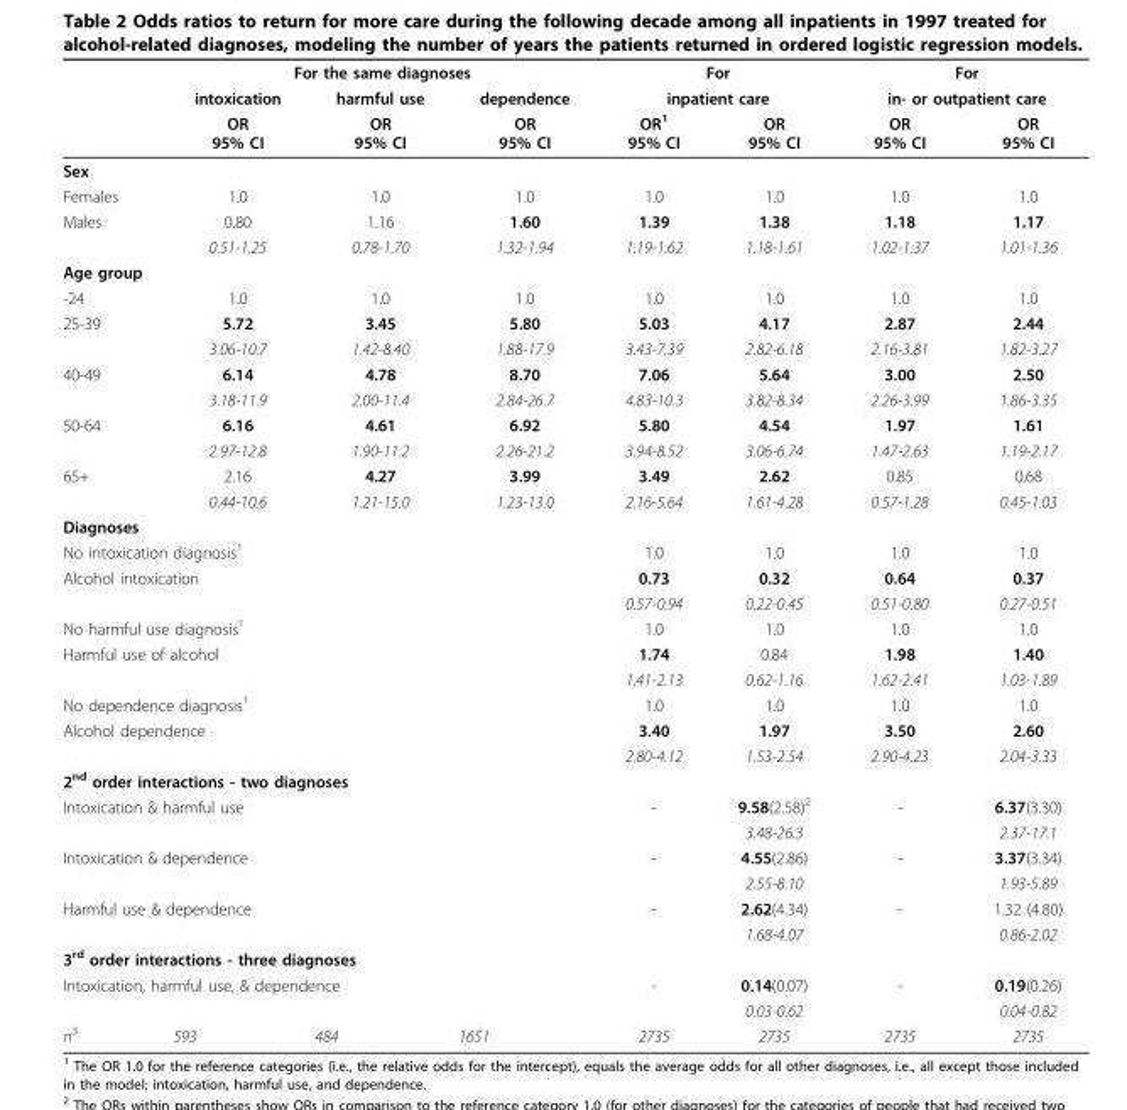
<table><thead><tr><td rowspan="3"></td><td colspan="3">For the same diagnoses</td><td rowspan="2" colspan="2">For inpatient care</td><td rowspan="2" colspan="2">For in- or outpatient care</td></tr><tr><td rowspan="2">intoxication OR 95% CI</td><td rowspan="2">harmful use OR 95% CI</td><td rowspan="2">dependence OR 95% CI</td></tr><tr><td>OR<sup>1</sup> 95% CI</td><td>OR 95% CI</td><td>OR 95% CI</td><td>OR 95% CI</td></tr></thead><tbody><tr><td colspan="8">Sex</td></tr><tr><td>Females</td><td>1.0</td><td>1.0</td><td>1.0</td><td>1.0</td><td>1.0</td><td>1.0</td><td>1.0</td></tr><tr><td rowspan="2">Males</td><td>0.80</td><td>1.16</td><td>1.60</td><td>1.39</td><td>1.38</td><td>1.18</td><td>1.17</td></tr><tr><td>0.51-1.25</td><td>0.78-1.70</td><td>1.32-1.94</td><td>1.19-1.62</td><td>1.18-1.61</td><td>1.02-1.37</td><td>1.01-1.36</td></tr><tr><td colspan="8">Age group</td></tr><tr><td>-24</td><td>1.0</td><td>1.0</td><td>1.0</td><td>1.0</td><td>1.0</td><td>1.0</td><td>1.0</td></tr><tr><td rowspan="2">25-39</td><td>5.72</td><td>3.45</td><td>5.80</td><td>5.03</td><td>4.17</td><td>2.87</td><td>2.44</td></tr><tr><td>3.06-10.7</td><td>1.42-8.40</td><td>1.88-17.9</td><td>3.43-7.39</td><td>2.82-6.18</td><td>2.16-3.81</td><td>1.82-3.27</td></tr><tr><td rowspan="2">40-49</td><td>6.14</td><td>4.78</td><td>8.70</td><td>7.06</td><td>5.64</td><td>3.00</td><td>2.50</td></tr><tr><td>3.18-11.9</td><td>2.00-11.4</td><td>2.84-26.7</td><td>4.83-10.3</td><td>3.82-8.34</td><td>2.26-3.99</td><td>1.86-3.35</td></tr><tr><td rowspan="2">50-64</td><td>6.16</td><td>4.61</td><td>6.92</td><td>5.80</td><td>4.54</td><td>1.97</td><td>1.61</td></tr><tr><td>2.97-12.8</td><td>1.90-11.2</td><td>2.26-21.2</td><td>3.94-8.52</td><td>3.06-6.74</td><td>1.47-2.63</td><td>1.19-2.17</td></tr><tr><td rowspan="2">65+</td><td>2.16</td><td>4.27</td><td>3.99</td><td>3.49</td><td>2.62</td><td>0.85</td><td>0.68</td></tr><tr><td>0.44-10.6</td><td>1.21-15.0</td><td>1.23-13.0</td><td>2.16-5.64</td><td>1.61-4.28</td><td>0.57-1.28</td><td>0.45-1.03</td></tr><tr><td colspan="8">Diagnoses</td></tr><tr><td colspan="3">No intoxication diagnosis<sup>1</sup></td><td></td><td>1.0</td><td>1.0</td><td>1.0</td><td>1.0</td></tr><tr><td colspan="3">Alcohol intoxication</td><td></td><td>0.73</td><td>0.32</td><td>0.64</td><td>0.37</td></tr><tr><td></td><td></td><td></td><td></td><td>0.57-0.94</td><td>0.22-0.45</td><td>0.51-0.80</td><td>0.27-0.51</td></tr><tr><td colspan="3">No harmful use diagnosis<sup>1</sup></td><td></td><td>1.0</td><td>1.0</td><td>1.0</td><td>1.0</td></tr><tr><td colspan="3">Harmful use of alcohol</td><td></td><td>1.74</td><td>0.84</td><td>1.98</td><td>1.40</td></tr><tr><td></td><td></td><td></td><td></td><td>1.41-2.13</td><td>0.62-1.16</td><td>1.62-2.41</td><td>1.03-1.89</td></tr><tr><td colspan="3">No dependence diagnosis<sup>1</sup></td><td></td><td>1.0</td><td>1.0</td><td>1.0</td><td>1.0</td></tr><tr><td colspan="3">Alcohol dependence</td><td></td><td>3.40</td><td>1.97</td><td>3.50</td><td>2.60</td></tr><tr><td></td><td></td><td></td><td></td><td>2.80-4.12</td><td>1.53-2.54</td><td>2.90-4.23</td><td>2.04-3.33</td></tr><tr><td colspan="8">2<sup>nd</sup> order interactions - two diagnoses</td></tr><tr><td colspan="3">Intoxication &amp; harmful use</td><td></td><td>-</td><td>9.58(2.58)<sup>2</sup></td><td>-</td><td>6.37(3.30)</td></tr><tr><td></td><td></td><td></td><td></td><td></td><td>3.48-26.3</td><td></td><td>2.37-17.1</td></tr><tr><td colspan="3">Intoxication &amp; dependence</td><td></td><td>-</td><td>4.55(2.86)</td><td>-</td><td>3.37(3.34)</td></tr><tr><td></td><td></td><td></td><td></td><td></td><td>2.55-8.10</td><td></td><td>1.93-5.89</td></tr><tr><td colspan="3">Harmful use &amp; dependence</td><td></td><td>-</td><td>2.62(4.34)</td><td>-</td><td>1.32 (4.80)</td></tr><tr><td></td><td></td><td></td><td></td><td></td><td>1.68-4.07</td><td></td><td>0.86-2.02</td></tr><tr><td colspan="8">3<sup>rd</sup> order interactions - three diagnoses</td></tr><tr><td colspan="4">Intoxication, harmful use, &amp; dependence</td><td>-</td><td>0.14(0.07)</td><td>-</td><td>0.19(0.26)</td></tr><tr><td></td><td></td><td></td><td></td><td></td><td>0.03-0.62</td><td></td><td>0.04-0.82</td></tr><tr><td>n<sup>3</sup></td><td>593</td><td>484</td><td>1651</td><td>2735</td><td>2735</td><td>2735</td><td>2735</td></tr></tbody></table>